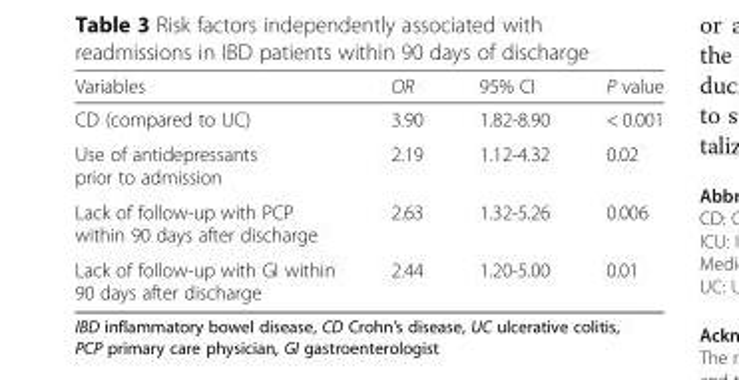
<table><thead><tr><td>Variables</td><td>OR</td><td>95% CI</td><td>P value</td></tr></thead><tbody><tr><td>CD (compared to UC)</td><td>3.90</td><td>1.82-8.90</td><td>&lt; 0.001</td></tr><tr><td>Use of antidepressants prior to admission</td><td>2.19</td><td>1.12-4.32</td><td>0.02</td></tr><tr><td>Lack of follow-up with PCP within 90 days after discharge</td><td>2.63</td><td>1.32-5.26</td><td>0.006</td></tr><tr><td>Lack of follow-up with GI within 90 days after discharge</td><td>2.44</td><td>1.20-5.00</td><td>0.01</td></tr></tbody></table>